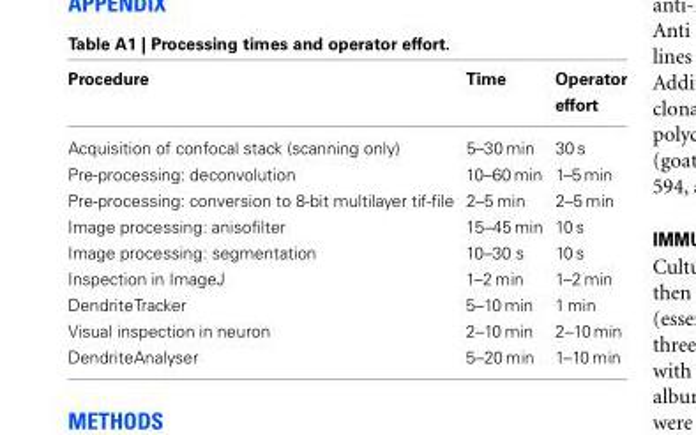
<table><thead><tr><td>Procedure</td><td>Time</td><td>Operator effort</td></tr></thead><tbody><tr><td>Acquisition of confocal stack (scanning only)</td><td>5–30 min</td><td>30s</td></tr><tr><td>Pre-processing: deconvolution</td><td>10–60 min</td><td>1–5 min</td></tr><tr><td>Pre-processing: conversion to 8-bit multilayer tif-file</td><td>2–5 min</td><td>2–5 min</td></tr><tr><td>Image processing: anisofilter</td><td>15–45 min</td><td>10 s</td></tr><tr><td>Image processing: segmentation</td><td>10–30 s</td><td>10 s</td></tr><tr><td>Inspection in ImageJ</td><td>1–2 min</td><td>1–2 min</td></tr><tr><td>DendriteTracker</td><td>5–10 min</td><td>1 min</td></tr><tr><td>Visual inspection in neuron</td><td>2–10 min</td><td>2–10 min</td></tr><tr><td>DendriteAnalyser</td><td>5–20 min</td><td>1–10 min</td></tr></tbody></table>